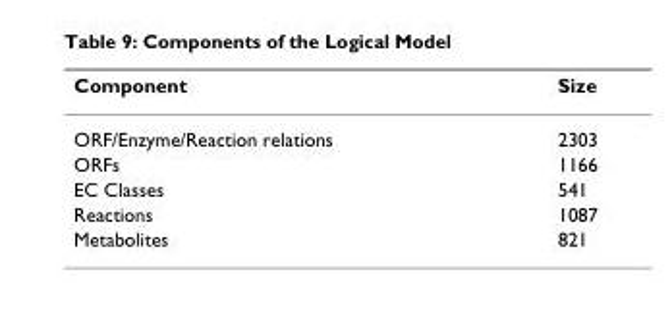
<table><thead><tr><td>Component</td><td>Size</td></tr></thead><tbody><tr><td>ORF/Enzyme/Reaction relations</td><td>2303</td></tr><tr><td>ORFs</td><td>1166</td></tr><tr><td>EC Classes</td><td>541</td></tr><tr><td>Reactions</td><td>1087</td></tr><tr><td>Metabolites</td><td>821</td></tr></tbody></table>